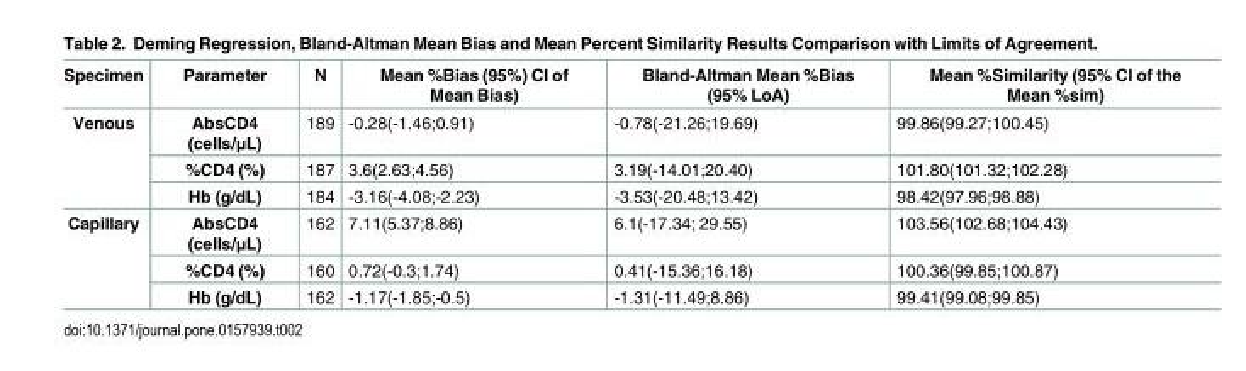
<table><thead><tr><td>Specimen</td><td>Parameter</td><td>N</td><td>Mean %Bias (95%) CI of Mean Bias)</td><td>Bland-Altman Mean %Bias (95% LoA)</td><td>Mean %Similarity (95% CI of the Mean %sim)</td></tr></thead><tbody><tr><td rowspan="3">Venous</td><td>AbsCD4 (cells/μL)</td><td>189</td><td>-0.28(-1.46;0.91)</td><td>-0.78(-21.26;19.69)</td><td>99.86(99.27;100.45)</td></tr><tr><td>%CD4 (%)</td><td>187</td><td>3.6(2.63;4.56)</td><td>3.19(-14.01;20.40)</td><td>101.80(101.32;102.28)</td></tr><tr><td>Hb (g/dL)</td><td>184</td><td>-3.16(-4.08;-2.23)</td><td>-3.53(-20.48;13.42)</td><td>98.42(97.96;98.88)</td></tr><tr><td rowspan="3">Capillary</td><td>AbsCD4 (cells/μL)</td><td>162</td><td>7.11(5.37;8.86)</td><td>6.1(-17.34; 29.55)</td><td>103.56(102.68;104.43)</td></tr><tr><td>%CD4 (%)</td><td>160</td><td>0.72(-0.3;1.74)</td><td>0.41(-15.36;16.18)</td><td>100.36(99.85;100.87)</td></tr><tr><td>Hb (g/dL)</td><td>162</td><td>-1.17(-1.85;-0.5)</td><td>-1.31(-11.49;8.86)</td><td>99.41(99.08;99.85)</td></tr></tbody></table>